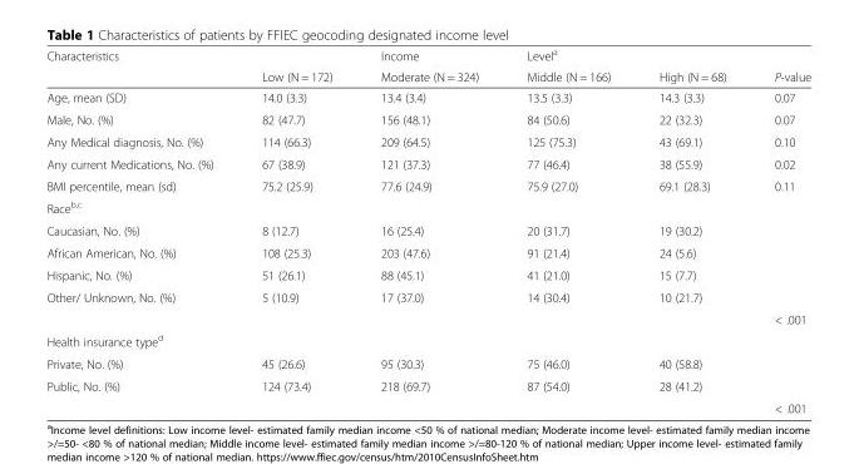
<table><thead><tr><td rowspan="2">Characteristics</td><td rowspan="2">Low (N = 172)</td><td rowspan="2">Income Moderate (N = 324)</td><td rowspan="2">Level<sup>a</sup> Middle (N = 166)</td><td rowspan="2">High (N = 68)</td><td rowspan="2">P-value</td></tr><tr></tr></thead><tbody><tr><td>Age, mean (SD)</td><td>14.0 (3.3)</td><td>13.4 (3.4)</td><td>13.5 (3.3)</td><td>14.3 (3.3)</td><td>0.07</td></tr><tr><td>Male, No. (%)</td><td>82 (47.7)</td><td>156 (48.1)</td><td>84 (50.6)</td><td>22 (32.3)</td><td>0.07</td></tr><tr><td>Any Medical diagnosis, No. (%)</td><td>114 (66.3)</td><td>209 (64.5)</td><td>125 (75.3)</td><td>43 (69.1)</td><td>0.10</td></tr><tr><td>Any current Medications, No. (%)</td><td>67 (38.9)</td><td>121 (37.3)</td><td>77 (46.4)</td><td>38 (55.9)</td><td>0.02</td></tr><tr><td>BMI percentile, mean (sd)</td><td>75.2 (25.9)</td><td>77.6 (24.9)</td><td>75.9 (27.0)</td><td>69.1 (28.3)</td><td>0.11</td></tr><tr><td colspan="6">Race<sup>b,c</sup></td></tr><tr><td>Caucasian, No. (%)</td><td>8 (12.7)</td><td>16 (25.4)</td><td>20 (31.7)</td><td>19 (30.2)</td><td></td></tr><tr><td>African American, No. (%)</td><td>108 (25.3)</td><td>203 (47.6)</td><td>91 (21.4)</td><td>24 (5.6)</td><td></td></tr><tr><td>Hispanic, No. (%)</td><td>51 (26.1)</td><td>88 (45.1)</td><td>41 (21.0)</td><td>15 (7.7)</td><td></td></tr><tr><td rowspan="2">Other/ Unknown, No. (%)</td><td>5 (10.9)</td><td>17 (37.0)</td><td>14 (30.4)</td><td>10 (21.7)</td><td></td></tr><tr><td></td><td></td><td></td><td></td><td>&lt; .001</td></tr><tr><td colspan="6">Health insurance type<sup>d</sup></td></tr><tr><td>Private, No. (%)</td><td>45 (26.6)</td><td>95 (30.3)</td><td>75 (46.0)</td><td>40 (58.8)</td><td></td></tr><tr><td rowspan="2">Public, No. (%)</td><td>124 (73.4)</td><td>218 (69.7)</td><td>87 (54.0)</td><td>28 (41.2)</td><td></td></tr><tr><td></td><td></td><td></td><td></td><td>&lt; .001</td></tr></tbody></table>